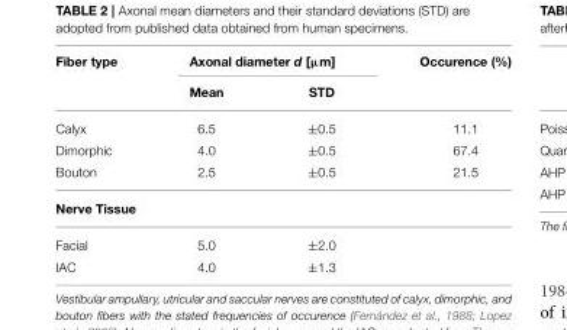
<table><thead><tr><td rowspan="2">Fiber type</td><td colspan="2">Axonal diameter d [µm]</td><td rowspan="2">Occurence (%)</td></tr><tr><td>Mean</td><td>STD</td></tr></thead><tbody><tr><td>Calyx</td><td>6.5</td><td>±0.5</td><td>11.1</td></tr><tr><td>Dimorphic</td><td>4.0</td><td>±0.5</td><td>67.4</td></tr><tr><td>Bouton</td><td>2.5</td><td>±0.5</td><td>21.5</td></tr><tr><td colspan="4">Nerve Tissue</td></tr><tr><td>Facial</td><td>5.0</td><td>±2.0</td><td></td></tr><tr><td>IAC</td><td>4.0</td><td>±1.3</td><td></td></tr></tbody></table>